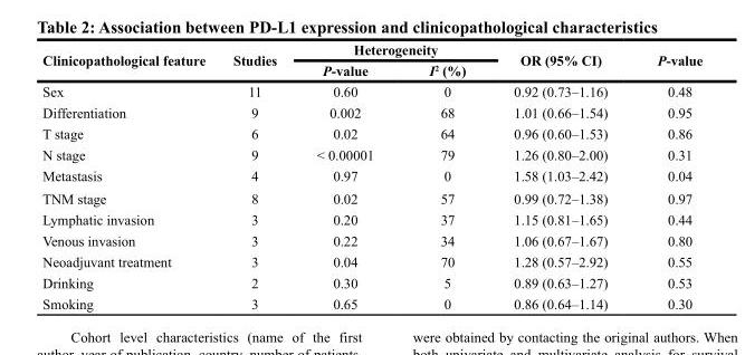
<table><thead><tr><td rowspan="2">Clinicopathological feature</td><td rowspan="2">Studies</td><td colspan="2">Heterogeneity</td><td rowspan="2">OR (95% CI)</td><td rowspan="2">P-value</td></tr><tr><td>P-value</td><td>I<sup>2</sup> (%)</td></tr></thead><tbody><tr><td>Sex</td><td>11</td><td>0.60</td><td>0</td><td>0.92 (0.73–1.16)</td><td>0.48</td></tr><tr><td>Differentiation</td><td>9</td><td>0.002</td><td>68</td><td>1.01 (0.66–1.54)</td><td>0.95</td></tr><tr><td>T stage</td><td>6</td><td>0.02</td><td>64</td><td>0.96 (0.60–1.53)</td><td>0.86</td></tr><tr><td>N stage</td><td>9</td><td>&lt; 0.00001</td><td>79</td><td>1.26 (0.80–2.00)</td><td>0.31</td></tr><tr><td>Metastasis</td><td>4</td><td>0.97</td><td>0</td><td>1.58 (1.03–2.42)</td><td>0.04</td></tr><tr><td>TNM stage</td><td>8</td><td>0.02</td><td>57</td><td>0.99 (0.72–1.38)</td><td>0.97</td></tr><tr><td>Lymphatic invasion</td><td>3</td><td>0.20</td><td>37</td><td>1.15 (0.81–1.65)</td><td>0.44</td></tr><tr><td>Venous invasion</td><td>3</td><td>0.22</td><td>34</td><td>1.06 (0.67–1.67)</td><td>0.80</td></tr><tr><td>Neoadjuvant treatment</td><td>3</td><td>0.04</td><td>70</td><td>1.28 (0.57–2.92)</td><td>0.55</td></tr><tr><td>Drinking</td><td>2</td><td>0.30</td><td>5</td><td>0.89 (0.63–1.27)</td><td>0.53</td></tr><tr><td>Smoking</td><td>3</td><td>0.65</td><td>0</td><td>0.86 (0.64–1.14)</td><td>0.30</td></tr></tbody></table>